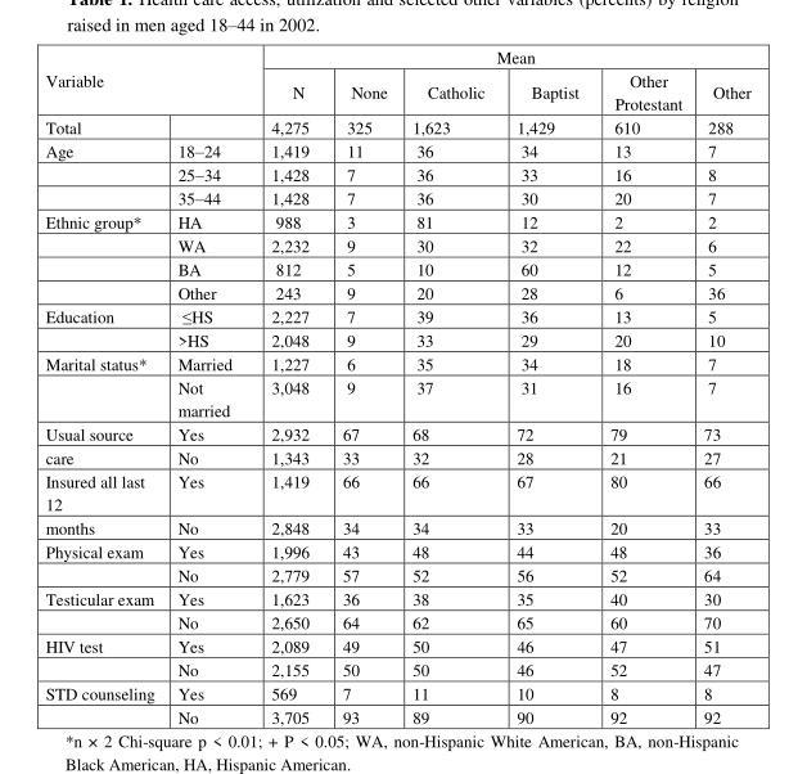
<table><thead><tr><td rowspan="2" colspan="2">Variable</td><td colspan="6">Mean</td></tr><tr><td rowspan="2">N 4,275</td><td rowspan="2">None 325</td><td rowspan="2">Catholic 1,623</td><td rowspan="2">Baptist 1,429</td><td rowspan="2">Other Protestant 610</td><td rowspan="2">Other 288</td></tr><tr><td>Total</td><td></td></tr></thead><tbody><tr><td rowspan="3">Age</td><td>18–24</td><td>1,419</td><td>11</td><td>36</td><td>34</td><td>13</td><td>7</td></tr><tr><td>25–34</td><td>1,428</td><td>7</td><td>36</td><td>33</td><td>16</td><td>8</td></tr><tr><td>35–44</td><td>1,428</td><td>7</td><td>36</td><td>30</td><td>20</td><td>7</td></tr><tr><td rowspan="4">Ethnic group*</td><td>HA</td><td>988</td><td>3</td><td>81</td><td>12</td><td>2</td><td>2</td></tr><tr><td>WA</td><td>2,232</td><td>9</td><td>30</td><td>32</td><td>22</td><td>6</td></tr><tr><td>BA</td><td>812</td><td>5</td><td>10</td><td>60</td><td>12</td><td>5</td></tr><tr><td>Other</td><td>243</td><td>9</td><td>20</td><td>28</td><td>6</td><td>36</td></tr><tr><td rowspan="2">Education</td><td>≤HS</td><td>2,227</td><td>7</td><td>39</td><td>36</td><td>13</td><td>5</td></tr><tr><td>&gt;HS</td><td>2,048</td><td>9</td><td>33</td><td>29</td><td>20</td><td>10</td></tr><tr><td rowspan="2">Marital status*</td><td>Married</td><td>1,227</td><td>6</td><td>35</td><td>34</td><td>18</td><td>7</td></tr><tr><td>Not married</td><td>3,048</td><td>9</td><td>37</td><td>31</td><td>16</td><td>7</td></tr><tr><td>Usual source</td><td>Yes</td><td>2,932</td><td>67</td><td>68</td><td>72</td><td>79</td><td>73</td></tr><tr><td>care</td><td>No</td><td>1,343</td><td>33</td><td>32</td><td>28</td><td>21</td><td>27</td></tr><tr><td>Insured all last 12</td><td>Yes</td><td>1,419</td><td>66</td><td>66</td><td>67</td><td>80</td><td>66</td></tr><tr><td>months</td><td>No</td><td>2,848</td><td>34</td><td>34</td><td>33</td><td>20</td><td>33</td></tr><tr><td rowspan="2">Physical exam</td><td>Yes</td><td>1,996</td><td>43</td><td>48</td><td>44</td><td>48</td><td>36</td></tr><tr><td>No</td><td>2,779</td><td>57</td><td>52</td><td>56</td><td>52</td><td>64</td></tr><tr><td rowspan="2">Testicular exam</td><td>Yes</td><td>1,623</td><td>36</td><td>38</td><td>35</td><td>40</td><td>30</td></tr><tr><td>No</td><td>2,650</td><td>64</td><td>62</td><td>65</td><td>60</td><td>70</td></tr><tr><td rowspan="2">HIV test</td><td>Yes</td><td>2,089</td><td>49</td><td>50</td><td>46</td><td>47</td><td>51</td></tr><tr><td>No</td><td>2,155</td><td>50</td><td>50</td><td>46</td><td>52</td><td>47</td></tr><tr><td rowspan="2">STD counseling</td><td>Yes</td><td>569</td><td>7</td><td>11</td><td>10</td><td>8</td><td>8</td></tr><tr><td>No</td><td>3,705</td><td>93</td><td>89</td><td>90</td><td>92</td><td>92</td></tr></tbody></table>